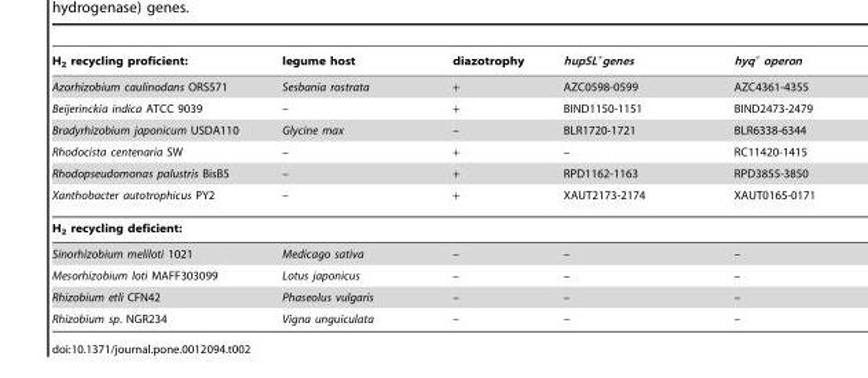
<table><thead><tr><td>H<sub>2</sub> recycling proficient:</td><td>legume host</td><td>diazotrophy</td><td>hupSL<sup>+</sup>genes</td><td>hyq<sup>+</sup> operon</td></tr></thead><tbody><tr><td>Azorhizobium caulinodans ORS571</td><td>Sesbania rostrata</td><td>+</td><td>AZC0598-0599</td><td>AZC4361-4355</td></tr><tr><td>Beijerinckia indica ATCC 9039</td><td>–</td><td>+</td><td>BIND1150-1151</td><td>BIND2473-2479</td></tr><tr><td>Bradyrhizobium japonicum USDA110</td><td>Glycine max</td><td>–</td><td>BLR1720-1721</td><td>BLR6338-6344</td></tr><tr><td>Rhodocista centenaria SW</td><td>–</td><td>+</td><td>–</td><td>RC11420-1415</td></tr><tr><td>Rhodopseudomonas palustris BisB5</td><td>–</td><td>+</td><td>RPD1162-1163</td><td>RPD3855-3850</td></tr><tr><td>Xanthobacter autotrophicus PY2</td><td>–</td><td>+</td><td>XAUT2173-2174</td><td>XAUT0165-0171</td></tr><tr><td colspan="5">H<sub>2</sub> recycling deficient:</td></tr><tr><td>Sinorhizobium meliloti 1021</td><td>Medicago sativa</td><td>–</td><td>–</td><td>–</td></tr><tr><td>Mesorhizobium loti MAFF303099</td><td>Lotus japonicus</td><td>–</td><td>–</td><td>–</td></tr><tr><td>Rhizobium etli CFN42</td><td>Phaseolus vulgaris</td><td>–</td><td>–</td><td>–</td></tr><tr><td>Rhizobium sp. NGR234</td><td>Vigna unguiculata</td><td>–</td><td>–</td><td>–</td></tr></tbody></table>